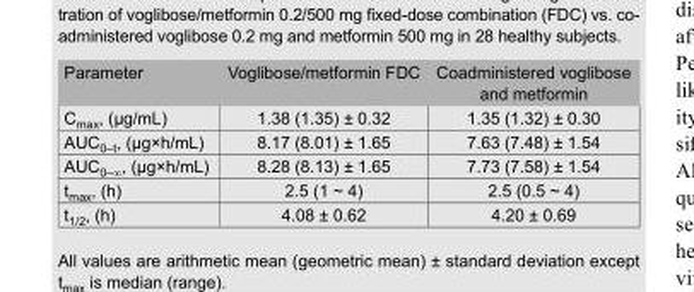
<table><thead><tr><td>Parameter</td><td>Voglibose/metformin FDC</td><td>Coadministered voglibose and metformin</td></tr></thead><tbody><tr><td>C<sub>max</sub>, (µg/mL)</td><td>1.38 (1.35) ± 0.32</td><td>1.35 (1.32) ± 0.30</td></tr><tr><td>AUC<sub>0–t</sub>, (µg×h/mL)</td><td>8.17 (8.01) ± 1.65</td><td>7.63 (7.48) ± 1.54</td></tr><tr><td>AUC<sub>0–∞</sub>, (µg×h/mL)</td><td>8.28 (8.13) ± 1.65</td><td>7.73 (7.58) ± 1.54</td></tr><tr><td>t<sub>max</sub>, (h)</td><td>2.5 (1 ~ 4)</td><td>2.5 (0.5 ~ 4)</td></tr><tr><td>t<sub>1/2</sub>, (h)</td><td>4.08 ± 0.62</td><td>4.20 ± 0.69</td></tr></tbody></table>